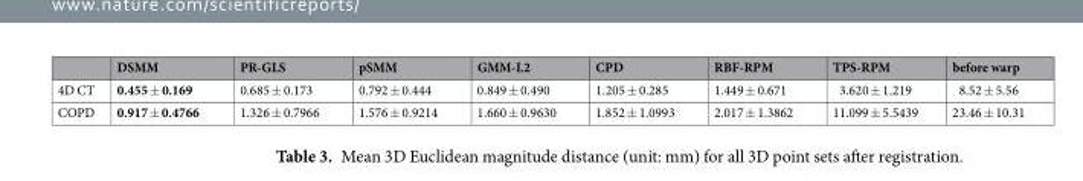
<table><thead><tr><td></td><td>DSMM</td><td>PR-GLS</td><td>pSMM</td><td>GMM-L2</td><td>CPD</td><td>RBF-RPM</td><td>TPS-RPM</td><td>before warp</td></tr></thead><tbody><tr><td>4D CT</td><td>0.455 ± 0.169</td><td>0.685 ± 0.173</td><td>0.792 ± 0.444</td><td>0.849 ± 0.490</td><td>1.205 ± 0.285</td><td>1.449 ± 0.671</td><td>3.620 ± 1.219</td><td>8.52 ± 5.56</td></tr><tr><td>COPD</td><td>0.917 ± 0.4766</td><td>1.326 ± 0.7966</td><td>1.576 ± 0.9214</td><td>1.660 ± 0.9630</td><td>1.852 ± 1.0993</td><td>2.017 ± 1.3862</td><td>11.099 ± 5.5439</td><td>23.46 ± 10.31</td></tr></tbody></table>